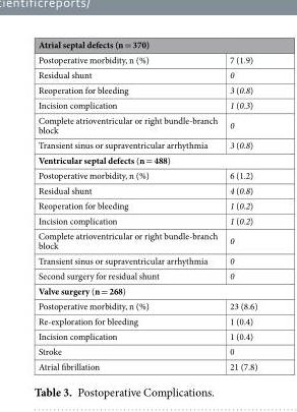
<table><thead><tr><td colspan="2">Atrial septal defects (n = 370)</td></tr><tr><td>Postoperative morbidity, n (%)</td><td>7 (1.9)</td></tr></thead><tbody><tr><td>Residual shunt</td><td>0</td></tr><tr><td>Reoperation for bleeding</td><td>3 (0.8)</td></tr><tr><td>Incision complication</td><td>1 (0.3)</td></tr><tr><td>Complete atrioventricular or right bundle-branch block</td><td>0</td></tr><tr><td>Transient sinus or supraventricular arrhythmia</td><td>3 (0.8)</td></tr><tr><td colspan="2">Ventricular septal defects (n = 488)</td></tr><tr><td>Postoperative morbidity, n (%)</td><td>6 (1.2)</td></tr><tr><td>Residual shunt</td><td>4 (0.8)</td></tr><tr><td>Reoperation for bleeding</td><td>1 (0.2)</td></tr><tr><td>Incision complication</td><td>1 (0.2)</td></tr><tr><td>Complete atrioventricular or right bundle-branch block</td><td>0</td></tr><tr><td>Transient sinus or supraventricular arrhythmia</td><td>0</td></tr><tr><td>Second surgery for residual shunt</td><td>0</td></tr><tr><td colspan="2">Valve surgery (n = 268)</td></tr><tr><td>Postoperative morbidity, n (%)</td><td>23 (8.6)</td></tr><tr><td>Re-exploration for bleeding</td><td>1 (0.4)</td></tr><tr><td>Incision complication</td><td>1 (0.4)</td></tr><tr><td>Stroke</td><td>0</td></tr><tr><td>Atrial fibrillation</td><td>21 (7.8)</td></tr></tbody></table>